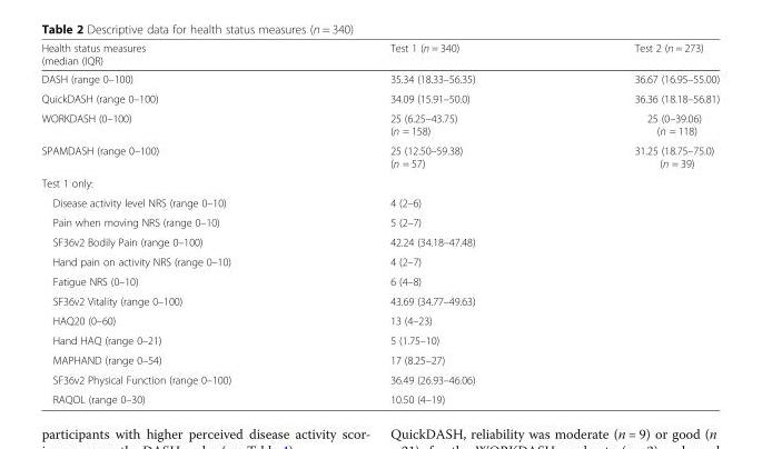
<table><thead><tr><td>Health status measures (median (IQR)</td><td>Test 1 (n = 340)</td><td>Test 2 (n = 273)</td></tr></thead><tbody><tr><td>DASH (range 0–100)</td><td>35.34 (18.33–56.35)</td><td>36.67 (16.95–55.00)</td></tr><tr><td>QuickDASH (range 0–100)</td><td>34.09 (15.91–50.0)</td><td>36.36 (18.18–56.81)</td></tr><tr><td>WORKDASH (0–100)</td><td>25 (6.25–43.75) (n = 158)</td><td>25 (0–39.06) (n = 118)</td></tr><tr><td>SPAMDASH (range 0–100)</td><td>25 (12.50–59.38) (n = 57)</td><td>31.25 (18.75–75.0) (n = 39)</td></tr><tr><td colspan="3">Test 1 only:</td></tr><tr><td>Disease activity level NRS (range 0–10)</td><td>4 (2–6)</td><td></td></tr><tr><td>Pain when moving NRS (range 0–10)</td><td>5 (2–7)</td><td></td></tr><tr><td>SF36v2 Bodily Pain (range 0–100)</td><td>42.24 (34.18–47.48)</td><td></td></tr><tr><td>Hand pain on activity NRS (range 0–10)</td><td>4 (2–7)</td><td></td></tr><tr><td>Fatigue NRS (0–10)</td><td>6 (4–8)</td><td></td></tr><tr><td>SF36v2 Vitality (range 0–100)</td><td>43.69 (34.77–49.63)</td><td></td></tr><tr><td>HAQ20 (0–60)</td><td>13 (4–23)</td><td></td></tr><tr><td>Hand HAQ (range 0–21)</td><td>5 (1.75–10)</td><td></td></tr><tr><td>MAPHAND (range 0–54)</td><td>17 (8.25–27)</td><td></td></tr><tr><td>SF36v2 Physical Function (range 0–100)</td><td>36.49 (26.93–46.06)</td><td></td></tr><tr><td>RAQOL (range 0–30)</td><td>10.50 (4–19)</td><td></td></tr></tbody></table>